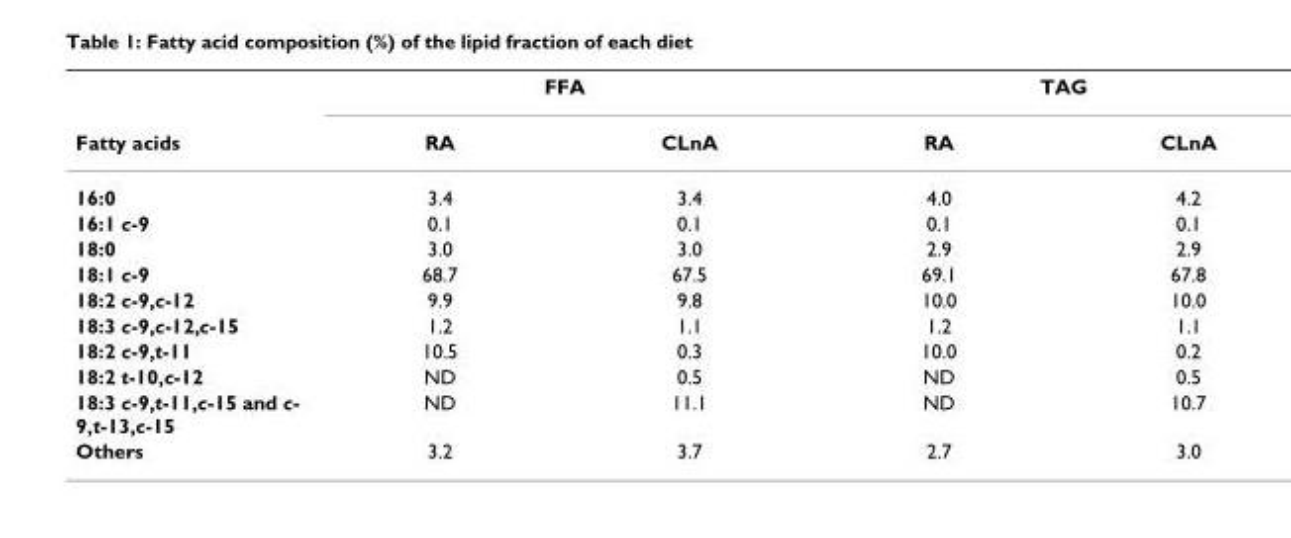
<table><thead><tr><td rowspan="2">Fatty acids</td><td colspan="2">FFA</td><td colspan="2">TAG</td></tr><tr><td>RA</td><td>CLnA</td><td>RA</td><td>CLnA</td></tr></thead><tbody><tr><td>16:0</td><td>3.4</td><td>3.4</td><td>4.0</td><td>4.2</td></tr><tr><td>16:1 c-9</td><td>0.1</td><td>0.1</td><td>0.1</td><td>0.1</td></tr><tr><td>18:0</td><td>3.0</td><td>3.0</td><td>2.9</td><td>2.9</td></tr><tr><td>18:1 c-9</td><td>68.7</td><td>67.5</td><td>69.1</td><td>67.8</td></tr><tr><td>18:2 c-9,c-12</td><td>9.9</td><td>9.8</td><td>10.0</td><td>10.0</td></tr><tr><td>18:3 c-9,c-12,c-15</td><td>1.2</td><td>1.1</td><td>1.2</td><td>1.1</td></tr><tr><td>18:2 c-9,t-11</td><td>10.5</td><td>0.3</td><td>10.0</td><td>0.2</td></tr><tr><td>18:2 t-10,c-12</td><td>ND</td><td>0.5</td><td>ND</td><td>0.5</td></tr><tr><td>18:3 c-9,t-11,c-15 and c- 9,t-13,c-15</td><td>ND</td><td>11.1</td><td>ND</td><td>10.7</td></tr><tr><td>Others</td><td>3.2</td><td>3.7</td><td>2.7</td><td>3.0</td></tr></tbody></table>